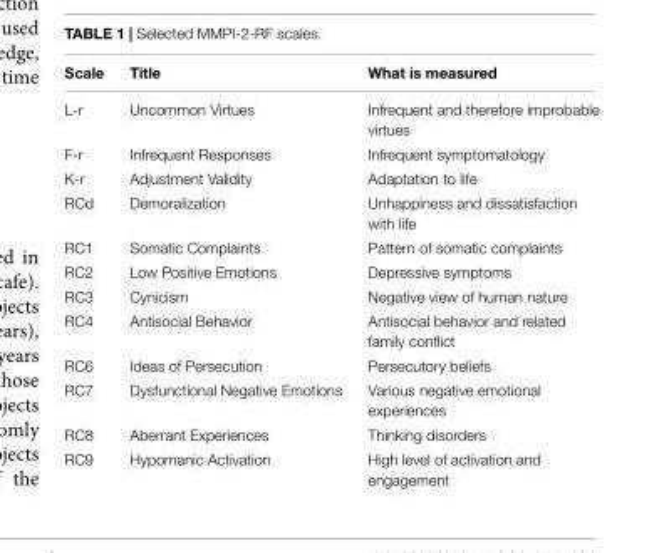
<table><thead><tr><td>Scale</td><td>Title</td><td>What is measured</td></tr></thead><tbody><tr><td>L-r</td><td>Uncommon Virtues</td><td>Infrequent and therefore improbable virtues</td></tr><tr><td>F-r</td><td>Infrequent Responses</td><td>Infrequent symptomatology</td></tr><tr><td>K-r</td><td>Adjustment Validity</td><td>Adaptation to life</td></tr><tr><td>RCd</td><td>Demoralization</td><td>Unhappiness and dissatisfaction with life</td></tr><tr><td>RC1</td><td>Somatic Complaints</td><td>Pattern of somatic complaints</td></tr><tr><td>RC2</td><td>Low Positive Emotions</td><td>Depressive symptoms</td></tr><tr><td>RC3</td><td>Cynicism</td><td>Negative view of human nature</td></tr><tr><td>RC4</td><td>Antisocial Behavior</td><td>Antisocial behavior and related family conflict</td></tr><tr><td>RC6</td><td>Ideas of Persecution</td><td>Persecutory beliefs</td></tr><tr><td>RC7</td><td>Dysfunctional Negative Emotions</td><td>Various negative emotional experiences</td></tr><tr><td>RC8</td><td>Aberrant Experiences</td><td>Thinking disorders</td></tr><tr><td>RC9</td><td>Hypomanic Activation</td><td>High level of activation and engagement</td></tr></tbody></table>